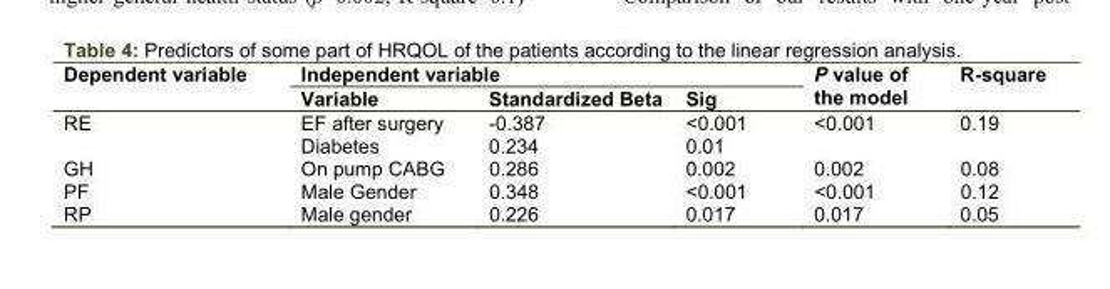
<table><thead><tr><td rowspan="2">Dependent variable</td><td colspan="3">Independent variable</td><td rowspan="2">P value of the model</td><td rowspan="2">R-square</td></tr><tr><td>Variable</td><td>Standardized Beta</td><td>Sig</td></tr></thead><tbody><tr><td rowspan="2">RE</td><td>EF after surgery</td><td>-0.387</td><td>&lt;0.001</td><td rowspan="2">&lt;0.001</td><td rowspan="2">0.19</td></tr><tr><td>Diabetes</td><td>0.234</td><td>0.01</td></tr><tr><td>GH</td><td>On pump CABG</td><td>0.286</td><td>0.002</td><td>0.002</td><td>0.08</td></tr><tr><td>PF</td><td>Male Gender</td><td>0.348</td><td>&lt;0.001</td><td>&lt;0.001</td><td>0.12</td></tr><tr><td>RP</td><td>Male gender</td><td>0.226</td><td>0.017</td><td>0.017</td><td>0.05</td></tr></tbody></table>